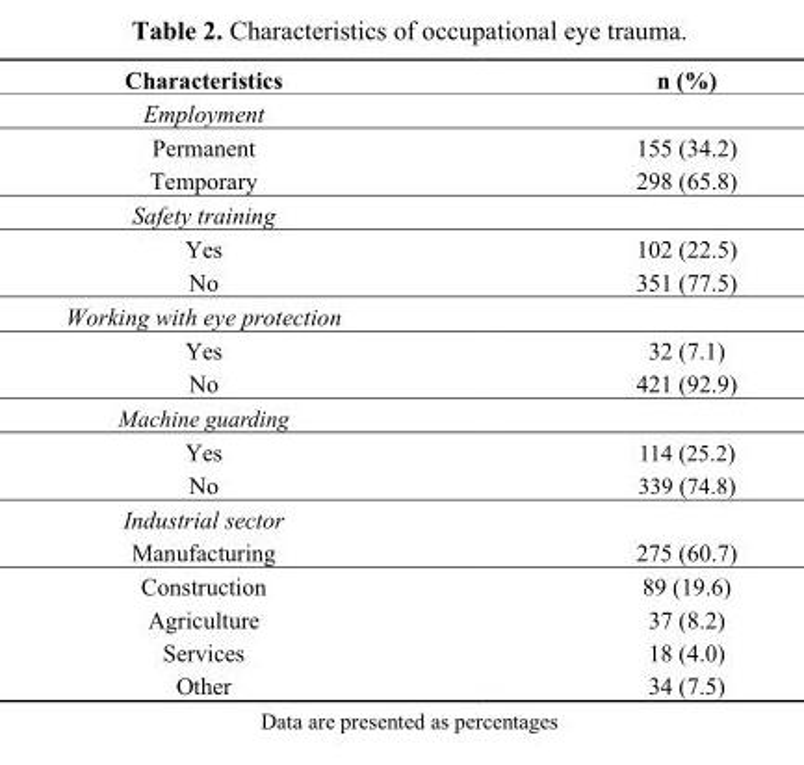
<table><thead><tr><td>Characteristics</td><td>n (%)</td></tr></thead><tbody><tr><td colspan="2">Employment</td></tr><tr><td>Permanent</td><td>155 (34.2)</td></tr><tr><td>Temporary</td><td>298 (65.8)</td></tr><tr><td colspan="2">Safety training</td></tr><tr><td>Yes</td><td>102 (22.5)</td></tr><tr><td>No</td><td>351 (77.5)</td></tr><tr><td colspan="2">Working with eye protection</td></tr><tr><td>Yes</td><td>32 (7.1)</td></tr><tr><td>No</td><td>421 (92.9)</td></tr><tr><td colspan="2">Machine guarding</td></tr><tr><td>Yes</td><td>114 (25.2)</td></tr><tr><td>No</td><td>339 (74.8)</td></tr><tr><td colspan="2">Industrial sector</td></tr><tr><td>Manufacturing</td><td>275 (60.7)</td></tr><tr><td>Construction</td><td>89 (19.6)</td></tr><tr><td>Agriculture</td><td>37 (8.2)</td></tr><tr><td>Services</td><td>18 (4.0)</td></tr><tr><td>Other</td><td>34 (7.5)</td></tr></tbody></table>